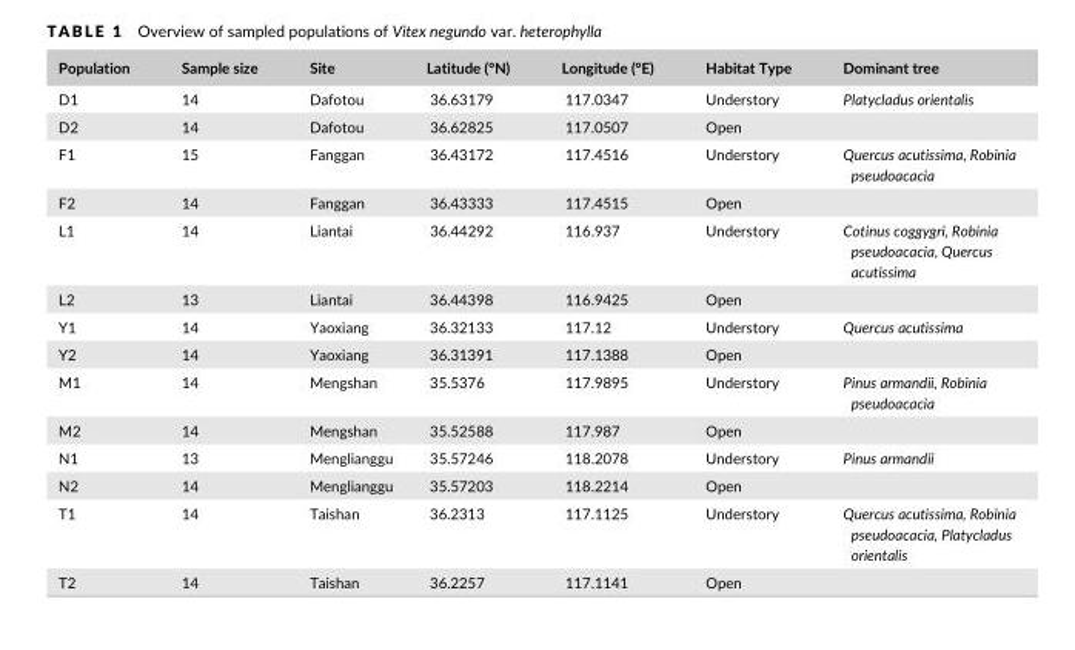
<table><thead><tr><td>Population</td><td>Sample size</td><td>Site</td><td>Latitude (°N)</td><td>Longitude (°E)</td><td>Habitat Type</td><td>Dominant tree</td></tr></thead><tbody><tr><td>D1</td><td>14</td><td>Dafotou</td><td>36.63179</td><td>117.0347</td><td>Understory</td><td>Platycladus orientalis</td></tr><tr><td>D2</td><td>14</td><td>Dafotou</td><td>36.62825</td><td>117.0507</td><td>Open</td><td></td></tr><tr><td>F1</td><td>15</td><td>Fanggan</td><td>36.43172</td><td>117.4516</td><td>Understory</td><td>Quercus acutissima, Robinia pseudoacacia</td></tr><tr><td>F2</td><td>14</td><td>Fanggan</td><td>36.43333</td><td>117.4515</td><td>Open</td><td></td></tr><tr><td>L1</td><td>14</td><td>Liantai</td><td>36.44292</td><td>116.937</td><td>Understory</td><td>Cotinus coggygri, Robinia pseudoacacia, Quercus acutissima</td></tr><tr><td>L2</td><td>13</td><td>Liantai</td><td>36.44398</td><td>116.9425</td><td>Open</td><td></td></tr><tr><td>Y1</td><td>14</td><td>Yaoxiang</td><td>36.32133</td><td>117.12</td><td>Understory</td><td>Quercus acutissima</td></tr><tr><td>Y2</td><td>14</td><td>Yaoxiang</td><td>36.31391</td><td>117.1388</td><td>Open</td><td></td></tr><tr><td>M1</td><td>14</td><td>Mengshan</td><td>35.5376</td><td>117.9895</td><td>Understory</td><td>Pinus armandii, Robinia pseudoacacia</td></tr><tr><td>M2</td><td>14</td><td>Mengshan</td><td>35.52588</td><td>117.987</td><td>Open</td><td></td></tr><tr><td>N1</td><td>13</td><td>Menglianggu</td><td>35.57246</td><td>118.2078</td><td>Understory</td><td>Pinus armandii</td></tr><tr><td>N2</td><td>14</td><td>Menglianggu</td><td>35.57203</td><td>118.2214</td><td>Open</td><td></td></tr><tr><td>T1</td><td>14</td><td>Taishan</td><td>36.2313</td><td>117.1125</td><td>Understory</td><td>Quercus acutissima, Robinia pseudoacacia, Platycladus orientalis</td></tr><tr><td>T2</td><td>14</td><td>Taishan</td><td>36.2257</td><td>117.1141</td><td>Open</td><td></td></tr></tbody></table>